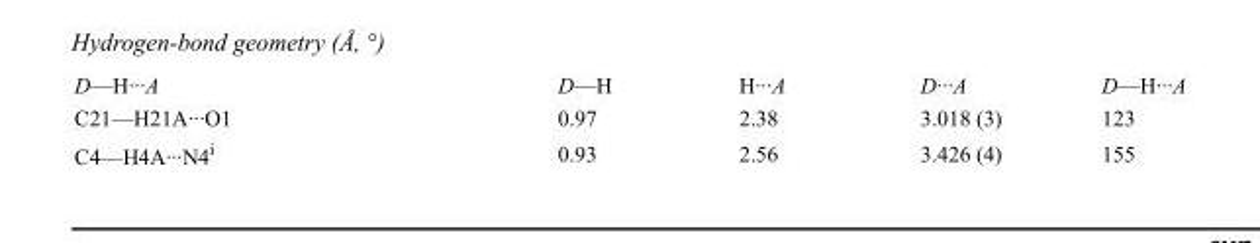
<table><tbody><tr><td>D—H···A</td><td>D—H</td><td>H···A</td><td>D···A</td><td>D—H···A</td></tr><tr><td>C21—H21A···O1</td><td>0.97</td><td>2.38</td><td>3.018 (3)</td><td>123</td></tr><tr><td>C4—H4A···N4<sup>i</sup></td><td>0.93</td><td>2.56</td><td>3.426 (4)</td><td>155</td></tr></tbody></table>